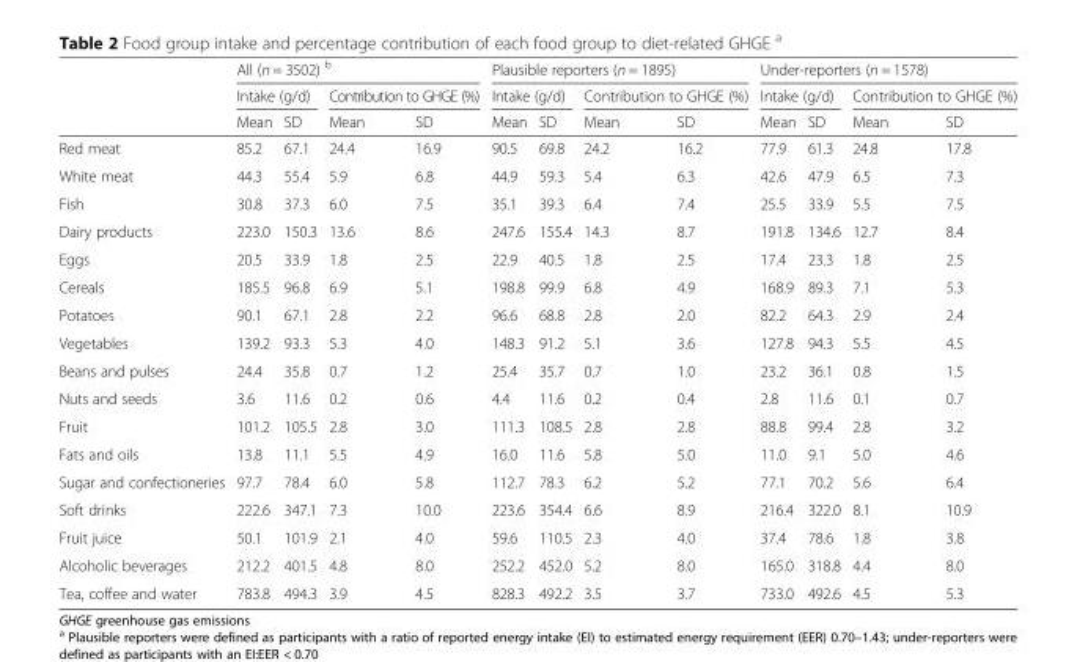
<table><thead><tr><td rowspan="3"></td><td colspan="4">All (n = 3502) <sup>b</sup></td><td colspan="4">Plausible reporters (n = 1895)</td><td colspan="4">Under-reporters (n = 1578)</td></tr><tr><td colspan="2">Intake (g/d)</td><td colspan="2">Contribution to GHGE (%)</td><td colspan="2">Intake (g/d)</td><td colspan="2">Contribution to GHGE (%)</td><td colspan="2">Intake (g/d)</td><td colspan="2">Contribution to GHGE (%)</td></tr><tr><td>Mean</td><td>SD</td><td>Mean</td><td>SD</td><td>Mean</td><td>SD</td><td>Mean</td><td>SD</td><td>Mean</td><td>SD</td><td>Mean</td><td>SD</td></tr></thead><tbody><tr><td>Red meat</td><td>85.2</td><td>67.1</td><td>24.4</td><td>16.9</td><td>90.5</td><td>69.8</td><td>24.2</td><td>16.2</td><td>77.9</td><td>61.3</td><td>24.8</td><td>17.8</td></tr><tr><td>White meat</td><td>44.3</td><td>55.4</td><td>5.9</td><td>6.8</td><td>44.9</td><td>59.3</td><td>5.4</td><td>6.3</td><td>42.6</td><td>47.9</td><td>6.5</td><td>7.3</td></tr><tr><td>Fish</td><td>30.8</td><td>37.3</td><td>6.0</td><td>7.5</td><td>35.1</td><td>39.3</td><td>6.4</td><td>7.4</td><td>25.5</td><td>33.9</td><td>5.5</td><td>7.5</td></tr><tr><td>Dairy products</td><td>223.0</td><td>150.3</td><td>13.6</td><td>8.6</td><td>247.6</td><td>155.4</td><td>14.3</td><td>8.7</td><td>191.8</td><td>134.6</td><td>12.7</td><td>8.4</td></tr><tr><td>Eggs</td><td>20.5</td><td>33.9</td><td>1.8</td><td>2.5</td><td>22.9</td><td>40.5</td><td>1.8</td><td>2.5</td><td>17.4</td><td>23.3</td><td>1.8</td><td>2.5</td></tr><tr><td>Cereals</td><td>185.5</td><td>96.8</td><td>6.9</td><td>5.1</td><td>198.8</td><td>99.9</td><td>6.8</td><td>4.9</td><td>168.9</td><td>89.3</td><td>7.1</td><td>5.3</td></tr><tr><td>Potatoes</td><td>90.1</td><td>67.1</td><td>2.8</td><td>2.2</td><td>96.6</td><td>68.8</td><td>2.8</td><td>2.0</td><td>82.2</td><td>64.3</td><td>2.9</td><td>2.4</td></tr><tr><td>Vegetables</td><td>139.2</td><td>93.3</td><td>5.3</td><td>4.0</td><td>148.3</td><td>91.2</td><td>5.1</td><td>3.6</td><td>127.8</td><td>94.3</td><td>5.5</td><td>4.5</td></tr><tr><td>Beans and pulses</td><td>24.4</td><td>35.8</td><td>0.7</td><td>1.2</td><td>25.4</td><td>35.7</td><td>0.7</td><td>1.0</td><td>23.2</td><td>36.1</td><td>0.8</td><td>1.5</td></tr><tr><td>Nuts and seeds</td><td>3.6</td><td>11.6</td><td>0.2</td><td>0.6</td><td>4.4</td><td>11.6</td><td>0.2</td><td>0.4</td><td>2.8</td><td>11.6</td><td>0.1</td><td>0.7</td></tr><tr><td>Fruit</td><td>101.2</td><td>105.5</td><td>2.8</td><td>3.0</td><td>111.3</td><td>108.5</td><td>2.8</td><td>2.8</td><td>88.8</td><td>99.4</td><td>2.8</td><td>3.2</td></tr><tr><td>Fats and oils</td><td>13.8</td><td>11.1</td><td>5.5</td><td>4.9</td><td>16.0</td><td>11.6</td><td>5.8</td><td>5.0</td><td>11.0</td><td>9.1</td><td>5.0</td><td>4.6</td></tr><tr><td>Sugar and confectioneries</td><td>97.7</td><td>78.4</td><td>6.0</td><td>5.8</td><td>112.7</td><td>78.3</td><td>6.2</td><td>5.2</td><td>77.1</td><td>70.2</td><td>5.6</td><td>6.4</td></tr><tr><td>Soft drinks</td><td>222.6</td><td>347.1</td><td>7.3</td><td>10.0</td><td>223.6</td><td>354.4</td><td>6.6</td><td>8.9</td><td>216.4</td><td>322.0</td><td>8.1</td><td>10.9</td></tr><tr><td>Fruit juice</td><td>50.1</td><td>101.9</td><td>2.1</td><td>4.0</td><td>59.6</td><td>110.5</td><td>2.3</td><td>4.0</td><td>37.4</td><td>78.6</td><td>1.8</td><td>3.8</td></tr><tr><td>Alcoholic beverages</td><td>212.2</td><td>401.5</td><td>4.8</td><td>8.0</td><td>252.2</td><td>452.0</td><td>5.2</td><td>8.0</td><td>165.0</td><td>318.8</td><td>4.4</td><td>8.0</td></tr><tr><td>Tea, coffee and water</td><td>783.8</td><td>494.3</td><td>3.9</td><td>4.5</td><td>828.3</td><td>492.2</td><td>3.5</td><td>3.7</td><td>733.0</td><td>492.6</td><td>4.5</td><td>5.3</td></tr></tbody></table>